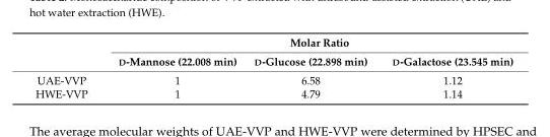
<table><thead><tr><td rowspan="2"></td><td colspan="3">Molar Ratio</td></tr><tr><td>D-Mannose (22.008 min)</td><td>D-Glucose (22.898 min)</td><td>D-Galactose (23.545 min)</td></tr></thead><tbody><tr><td>UAE-VVP</td><td>1</td><td>6.58</td><td>1.12</td></tr><tr><td>HWE-VVP</td><td>1</td><td>4.79</td><td>1.14</td></tr></tbody></table>